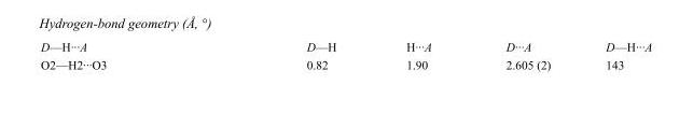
<table><tbody><tr><td>D—H···A</td><td>D—H</td><td>H···A</td><td>D···A</td><td>D—H···A</td></tr><tr><td>O2—H2···O3</td><td>0.82</td><td>1.90</td><td>2.605 (2)</td><td>143</td></tr></tbody></table>